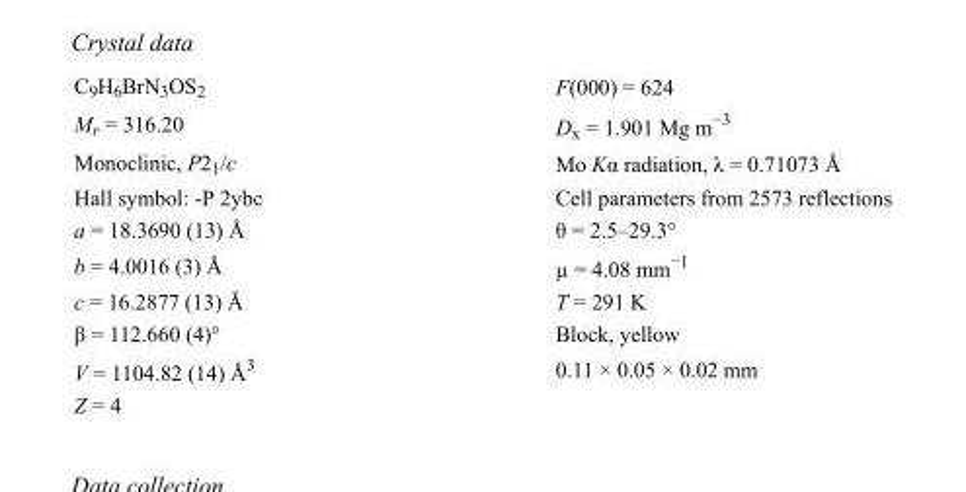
<table><tbody><tr><td>C<sub>9</sub>H<sub>6</sub>BrN<sub>3</sub>OS<sub>2</sub></td><td>F(000) = 624</td></tr><tr><td>M<sub>r</sub> = 316.20</td><td>D<sub>x</sub> = 1.901 Mg m<sup>−3</sup></td></tr><tr><td>Monoclinic, P2<sub>1</sub>/c</td><td>Mo Kα radiation, λ = 0.71073 Å</td></tr><tr><td>Hall symbol: -P 2ybc</td><td>Cell parameters from 2573 reflections</td></tr><tr><td>a = 18.3690 (13) Å</td><td>θ = 2.5–29.3°</td></tr><tr><td>b = 4.0016 (3) Å</td><td>µ = 4.08 mm<sup>−1</sup></td></tr><tr><td>c = 16.2877 (13) Å</td><td>T = 291 K</td></tr><tr><td>β = 112.660 (4)°</td><td>Block, yellow</td></tr><tr><td>V = 1104.82 (14) Å<sup>3</sup></td><td>0.11 × 0.05 × 0.02 mm</td></tr><tr><td>Z = 4</td><td></td></tr></tbody></table>